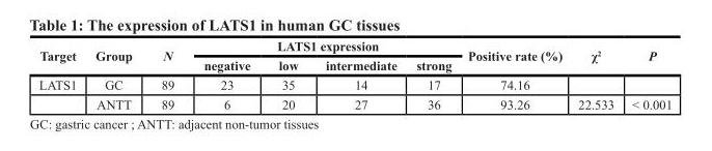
<table><thead><tr><td rowspan="2">Target</td><td rowspan="2">Group</td><td rowspan="2">N</td><td colspan="4">LATS1 expression</td><td rowspan="2">Positive rate (%)</td><td rowspan="2">χ<sup>2</sup></td><td rowspan="2">P</td></tr><tr><td>negative</td><td>low</td><td>intermediate</td><td>strong</td></tr></thead><tbody><tr><td rowspan="2">LATS1</td><td>GC</td><td>89</td><td>23</td><td>35</td><td>14</td><td>17</td><td>74.16</td><td></td><td></td></tr><tr><td>ANTT</td><td>89</td><td>6</td><td>20</td><td>27</td><td>36</td><td>93.26</td><td>22.533</td><td>&lt; 0.001</td></tr></tbody></table>